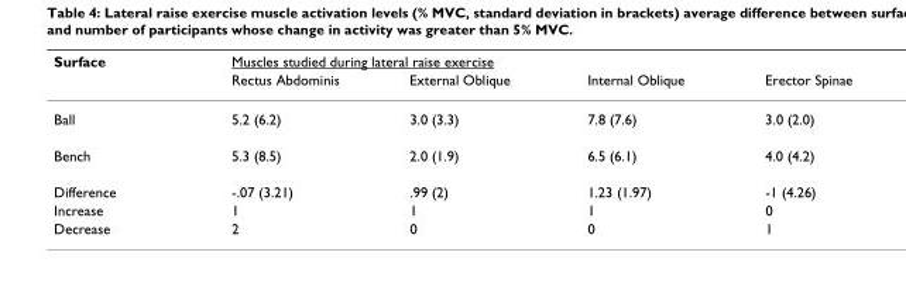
<table><thead><tr><td rowspan="2">Surface</td><td colspan="4">Muscles studied during lateral raise exercise</td></tr><tr><td>Rectus Abdominis</td><td>External Oblique</td><td>Internal Oblique</td><td>Erector Spinae</td></tr></thead><tbody><tr><td>Ball</td><td>5.2 (6.2)</td><td>3.0 (3.3)</td><td>7.8 (7.6)</td><td>3.0 (2.0)</td></tr><tr><td>Bench</td><td>5.3 (8.5)</td><td>2.0 (1.9)</td><td>6.5 (6.1)</td><td>4.0 (4.2)</td></tr><tr><td>Difference</td><td>-.07 (3.21)</td><td>.99 (2)</td><td>1.23 (1.97)</td><td>-1 (4.26)</td></tr><tr><td>Increase</td><td>1</td><td>1</td><td>1</td><td>0</td></tr><tr><td>Decrease</td><td>2</td><td>0</td><td>0</td><td>1</td></tr></tbody></table>